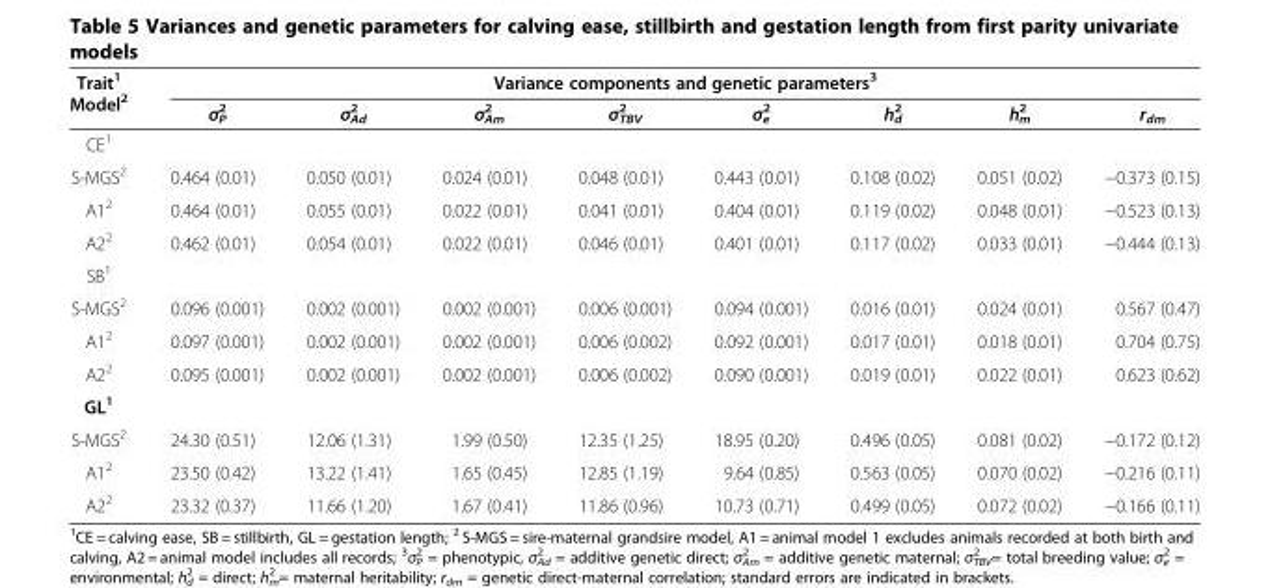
<table><thead><tr><td rowspan="2">Trait<sup>1</sup> Model<sup>2</sup></td><td colspan="8">Variance components and genetic parameters<sup>3</sup></td></tr><tr><td>σ<sub>P</sub> <sup>2</sup></td><td>σ<sub>Ad</sub> <sup>2</sup></td><td>σ<sub>Am</sub> <sup>2</sup></td><td>σ<sub>TBV</sub> <sup>2</sup></td><td>σ<sub>e</sub> <sup>2</sup></td><td>h<sub>d</sub> <sup>2</sup></td><td>h<sub>m</sub> <sup>2</sup></td><td>r<sub>dm</sub></td></tr></thead><tbody><tr><td colspan="9">CE<sup>1</sup></td></tr><tr><td>S-MGS<sup>2</sup></td><td>0.464 (0.01)</td><td>0.050 (0.01)</td><td>0.024 (0.01)</td><td>0.048 (0.01)</td><td>0.443 (0.01)</td><td>0.108 (0.02)</td><td>0.051 (0.02)</td><td>−0.373 (0.15)</td></tr><tr><td>A1<sup>2</sup></td><td>0.464 (0.01)</td><td>0.055 (0.01)</td><td>0.022 (0.01)</td><td>0.041 (0.01)</td><td>0.404 (0.01)</td><td>0.119 (0.02)</td><td>0.048 (0.01)</td><td>−0.523 (0.13)</td></tr><tr><td>A2<sup>2</sup></td><td>0.462 (0.01)</td><td>0.054 (0.01)</td><td>0.022 (0.01)</td><td>0.046 (0.01)</td><td>0.401 (0.01)</td><td>0.117 (0.02)</td><td>0.033 (0.01)</td><td>−0.444 (0.13)</td></tr><tr><td colspan="9">SB<sup>1</sup></td></tr><tr><td>S-MGS<sup>2</sup></td><td>0.096 (0.001)</td><td>0.002 (0.001)</td><td>0.002 (0.001)</td><td>0.006 (0.001)</td><td>0.094 (0.001)</td><td>0.016 (0.01)</td><td>0.024 (0.01)</td><td>0.567 (0.47)</td></tr><tr><td>A1<sup>2</sup></td><td>0.097 (0.001)</td><td>0.002 (0.001)</td><td>0.002 (0.001)</td><td>0.006 (0.002)</td><td>0.092 (0.001)</td><td>0.017 (0.01)</td><td>0.018 (0.01)</td><td>0.704 (0.75)</td></tr><tr><td>A2<sup>2</sup></td><td>0.095 (0.001)</td><td>0.002 (0.001)</td><td>0.002 (0.001)</td><td>0.006 (0.002)</td><td>0.090 (0.001)</td><td>0.019 (0.01)</td><td>0.022 (0.01)</td><td>0.623 (0.62)</td></tr><tr><td colspan="9">GL<sup>1</sup></td></tr><tr><td>S-MGS<sup>2</sup></td><td>24.30 (0.51)</td><td>12.06 (1.31)</td><td>1.99 (0.50)</td><td>12.35 (1.25)</td><td>18.95 (0.20)</td><td>0.496 (0.05)</td><td>0.081 (0.02)</td><td>−0.172 (0.12)</td></tr><tr><td>A1<sup>2</sup></td><td>23.50 (0.42)</td><td>13.22 (1.41)</td><td>1.65 (0.45)</td><td>12.85 (1.19)</td><td>9.64 (0.85)</td><td>0.563 (0.05)</td><td>0.070 (0.02)</td><td>−0.216 (0.11)</td></tr><tr><td>A2<sup>2</sup></td><td>23.32 (0.37)</td><td>11.66 (1.20)</td><td>1.67 (0.41)</td><td>11.86 (0.96)</td><td>10.73 (0.71)</td><td>0.499 (0.05)</td><td>0.072 (0.02)</td><td>−0.166 (0.11)</td></tr></tbody></table>